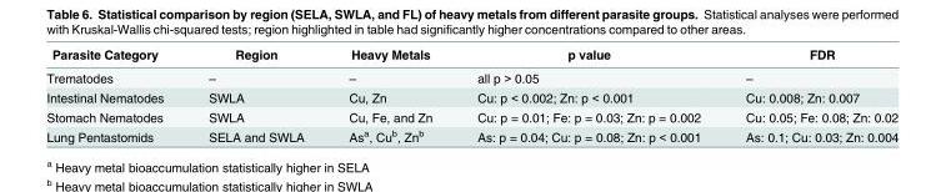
<table><thead><tr><td>Parasite Category</td><td>Region</td><td>Heavy Metals</td><td>p value</td><td>FDR</td></tr></thead><tbody><tr><td>Trematodes</td><td>–</td><td>–</td><td>all p &gt; 0.05</td><td>–</td></tr><tr><td>Intestinal Nematodes</td><td>SWLA</td><td>Cu, Zn</td><td>Cu: p &lt; 0.002; Zn: p &lt; 0.001</td><td>Cu: 0.008; Zn: 0.007</td></tr><tr><td>Stomach Nematodes</td><td>SWLA</td><td>Cu, Fe, and Zn</td><td>Cu: p = 0.01; Fe: p = 0.03; Zn: p = 0.002</td><td>Cu: 0.05; Fe: 0.08; Zn: 0.02</td></tr><tr><td>Lung Pentastomids</td><td>SELA and SWLA</td><td>As<sup>a</sup>, Cu<sup>b</sup>, Zn<sup>b</sup></td><td>As: p = 0.04; Cu: p = 0.08; Zn: p &lt; 0.001</td><td>As: 0.1; Cu: 0.03; Zn: 0.004</td></tr></tbody></table>